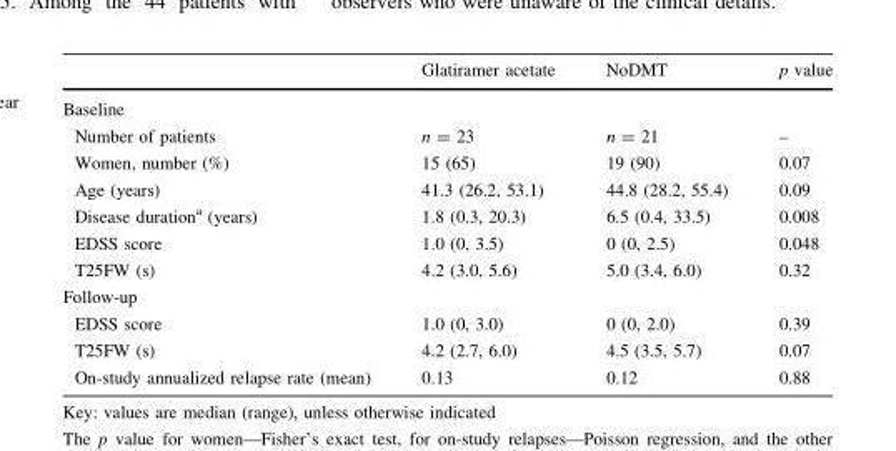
<table><thead><tr><td></td><td>Glatiramer acetate</td><td>NoDMT</td><td>p value</td></tr></thead><tbody><tr><td colspan="4">Baseline</td></tr><tr><td>Number of patients</td><td>n = 23</td><td>n = 21</td><td>–</td></tr><tr><td>Women, number (%)</td><td>15 (65)</td><td>19 (90)</td><td>0.07</td></tr><tr><td>Age (years)</td><td>41.3 (26.2, 53.1)</td><td>44.8 (28.2, 55.4)</td><td>0.09</td></tr><tr><td>Disease duration<sup>a</sup> (years)</td><td>1.8 (0.3, 20.3)</td><td>6.5 (0.4, 33.5)</td><td>0.008</td></tr><tr><td>EDSS score</td><td>1.0 (0, 3.5)</td><td>0 (0, 2.5)</td><td>0.048</td></tr><tr><td>T25FW (s)</td><td>4.2 (3.0, 5.6)</td><td>5.0 (3.4, 6.0)</td><td>0.32</td></tr><tr><td colspan="4">Follow-up</td></tr><tr><td>EDSS score</td><td>1.0 (0, 3.0)</td><td>0 (0, 2.0)</td><td>0.39</td></tr><tr><td>T25FW (s)</td><td>4.2 (2.7, 6.0)</td><td>4.5 (3.5, 5.7)</td><td>0.07</td></tr><tr><td>On-study annualized relapse rate (mean)</td><td>0.13</td><td>0.12</td><td>0.88</td></tr></tbody></table>